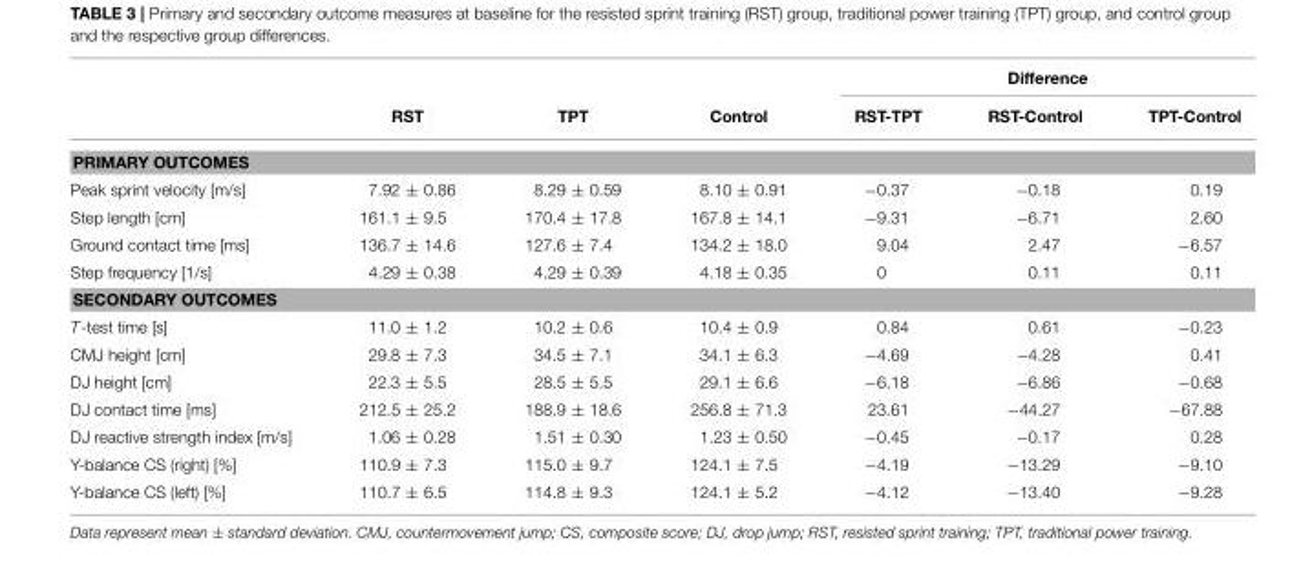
<table><thead><tr><td rowspan="2"></td><td rowspan="2">RST</td><td rowspan="2">TPT</td><td rowspan="2">Control</td><td colspan="3">Difference</td></tr><tr><td>RST-TPT</td><td>RST-Control</td><td>TPT-Control</td></tr></thead><tbody><tr><td colspan="7">PRIMARY OUTCOMES</td></tr><tr><td>Peak sprint velocity [m/s]</td><td>7.92 ± 0.86</td><td>8.29 ± 0.59</td><td>8.10 ± 0.91</td><td>−0.37</td><td>−0.18</td><td>0.19</td></tr><tr><td>Step length [cm]</td><td>161.1 ± 9.5</td><td>170.4 ± 17.8</td><td>167.8 ± 14.1</td><td>−9.31</td><td>−6.71</td><td>2.60</td></tr><tr><td>Ground contact time [ms]</td><td>136.7 ± 14.6</td><td>127.6 ± 7.4</td><td>134.2 ± 18.0</td><td>9.04</td><td>2.47</td><td>−6.57</td></tr><tr><td>Step frequency [1/s]</td><td>4.29 ± 0.38</td><td>4.29 ± 0.39</td><td>4.18 ± 0.35</td><td>0</td><td>0.11</td><td>0.11</td></tr><tr><td colspan="7">SECONDARY OUTCOMES</td></tr><tr><td>T-test time [s]</td><td>11.0 ± 1.2</td><td>10.2 ± 0.6</td><td>10.4 ± 0.9</td><td>0.84</td><td>0.61</td><td>−0.23</td></tr><tr><td>CMJ height [cm]</td><td>29.8 ± 7.3</td><td>34.5 ± 7.1</td><td>34.1 ± 6.3</td><td>−4.69</td><td>−4.28</td><td>0.41</td></tr><tr><td>DJ height [cm]</td><td>22.3 ± 5.5</td><td>28.5 ± 5.5</td><td>29.1 ± 6.6</td><td>−6.18</td><td>−6.86</td><td>−0.68</td></tr><tr><td>DJ contact time [ms]</td><td>212.5 ± 25.2</td><td>188.9 ± 18.6</td><td>256.8 ± 71.3</td><td>23.61</td><td>−44.27</td><td>−67.88</td></tr><tr><td>DJ reactive strength index [m/s]</td><td>1.06 ± 0.28</td><td>1.51 ± 0.30</td><td>1.23 ± 0.50</td><td>−0.45</td><td>−0.17</td><td>0.28</td></tr><tr><td>Y-balance CS (right) [%]</td><td>110.9 ± 7.3</td><td>115.0 ± 9.7</td><td>124.1 ± 7.5</td><td>−4.19</td><td>−13.29</td><td>−9.10</td></tr><tr><td>Y-balance CS (left) [%]</td><td>110.7 ± 6.5</td><td>114.8 ± 9.3</td><td>124.1 ± 5.2</td><td>−4.12</td><td>−13.40</td><td>−9.28</td></tr></tbody></table>